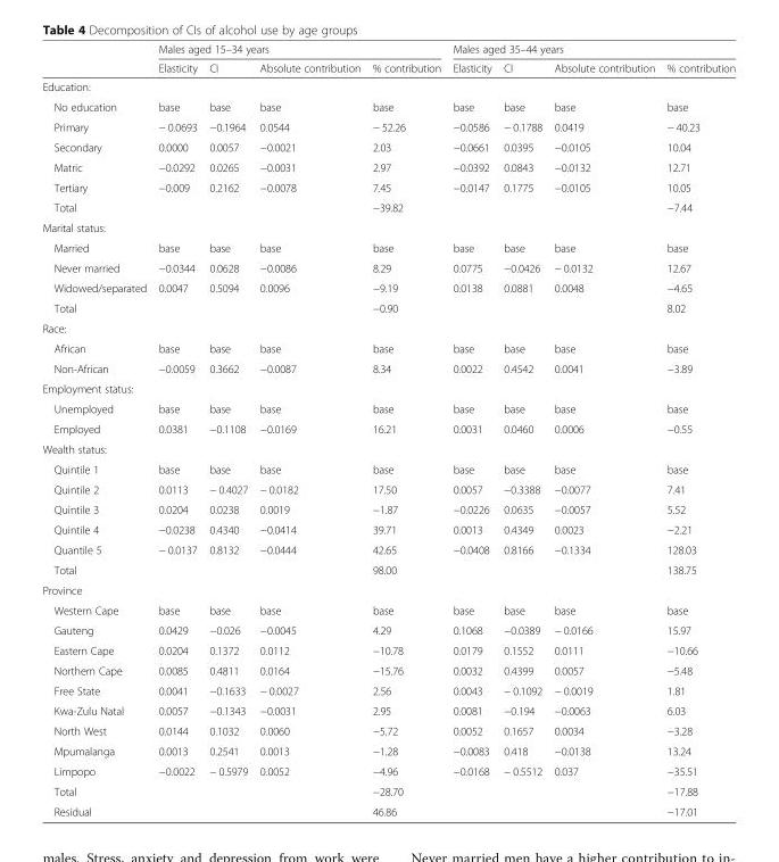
<table><thead><tr><td rowspan="2"></td><td colspan="4">Males aged 15–34 years</td><td colspan="4">Males aged 35–44 years</td></tr><tr><td>Elasticity</td><td>CI</td><td>Absolute contribution</td><td>% contribution</td><td>Elasticity</td><td>CI</td><td>Absolute contribution</td><td>% contribution</td></tr></thead><tbody><tr><td colspan="9">Education:</td></tr><tr><td>No education</td><td>base</td><td>base</td><td>base</td><td>base</td><td>base</td><td>base</td><td>base</td><td>base</td></tr><tr><td>Primary</td><td>− 0.0693</td><td>−0.1964</td><td>0.0544</td><td>− 52.26</td><td>−0.0586</td><td>− 0.1788</td><td>0.0419</td><td>− 40.23</td></tr><tr><td>Secondary</td><td>0.0000</td><td>0.0057</td><td>−0.0021</td><td>2.03</td><td>−0.0661</td><td>0.0395</td><td>−0.0105</td><td>10.04</td></tr><tr><td>Matric</td><td>−0.0292</td><td>0.0265</td><td>−0.0031</td><td>2.97</td><td>−0.0392</td><td>0.0843</td><td>−0.0132</td><td>12.71</td></tr><tr><td>Tertiary</td><td>−0.009</td><td>0.2162</td><td>−0.0078</td><td>7.45</td><td>−0.0147</td><td>0.1775</td><td>−0.0105</td><td>10.05</td></tr><tr><td>Total</td><td></td><td></td><td></td><td>−39.82</td><td></td><td></td><td></td><td>−7.44</td></tr><tr><td colspan="9">Marital status:</td></tr><tr><td>Married</td><td>base</td><td>base</td><td>base</td><td>base</td><td>base</td><td>base</td><td>base</td><td>base</td></tr><tr><td>Never married</td><td>−0.0344</td><td>0.0628</td><td>−0.0086</td><td>8.29</td><td>0.0775</td><td>−0.0426</td><td>− 0.0132</td><td>12.67</td></tr><tr><td>Widowed/separated</td><td>0.0047</td><td>0.5094</td><td>0.0096</td><td>−9.19</td><td>0.0138</td><td>0.0881</td><td>0.0048</td><td>−4.65</td></tr><tr><td>Total</td><td></td><td></td><td></td><td>−0.90</td><td></td><td></td><td></td><td>8.02</td></tr><tr><td colspan="9">Race:</td></tr><tr><td>African</td><td>base</td><td>base</td><td>base</td><td>base</td><td>base</td><td>base</td><td>base</td><td>base</td></tr><tr><td>Non-African</td><td>−0.0059</td><td>0.3662</td><td>−0.0087</td><td>8.34</td><td>0.0022</td><td>0.4542</td><td>0.0041</td><td>−3.89</td></tr><tr><td colspan="9">Employment status:</td></tr><tr><td>Unemployed</td><td>base</td><td>base</td><td>base</td><td>base</td><td>base</td><td>base</td><td>base</td><td>base</td></tr><tr><td>Employed</td><td>0.0381</td><td>−0.1108</td><td>−0.0169</td><td>16.21</td><td>0.0031</td><td>0.0460</td><td>0.0006</td><td>−0.55</td></tr><tr><td colspan="9">Wealth status:</td></tr><tr><td>Quintile 1</td><td>base</td><td>base</td><td>base</td><td>base</td><td>base</td><td>base</td><td>base</td><td>base</td></tr><tr><td>Quintile 2</td><td>0.0113</td><td>− 0.4027</td><td>− 0.0182</td><td>17.50</td><td>0.0057</td><td>−0.3388</td><td>−0.0077</td><td>7.41</td></tr><tr><td>Quintile 3</td><td>0.0204</td><td>0.0238</td><td>0.0019</td><td>−1.87</td><td>−0.0226</td><td>0.0635</td><td>−0.0057</td><td>5.52</td></tr><tr><td>Quintile 4</td><td>−0.0238</td><td>0.4340</td><td>−0.0414</td><td>39.71</td><td>0.0013</td><td>0.4349</td><td>0.0023</td><td>−2.21</td></tr><tr><td>Quantile 5</td><td>− 0.0137</td><td>0.8132</td><td>−0.0444</td><td>42.65</td><td>−0.0408</td><td>0.8166</td><td>−0.1334</td><td>128.03</td></tr><tr><td>Total</td><td></td><td></td><td></td><td>98.00</td><td></td><td></td><td></td><td>138.75</td></tr><tr><td colspan="9">Province</td></tr><tr><td>Western Cape</td><td>base</td><td>base</td><td>base</td><td>base</td><td>base</td><td>base</td><td>base</td><td>base</td></tr><tr><td>Gauteng</td><td>0.0429</td><td>−0.026</td><td>−0.0045</td><td>4.29</td><td>0.1068</td><td>−0.0389</td><td>− 0.0166</td><td>15.97</td></tr><tr><td>Eastern Cape</td><td>0.0204</td><td>0.1372</td><td>0.0112</td><td>−10.78</td><td>0.0179</td><td>0.1552</td><td>0.0111</td><td>−10.66</td></tr><tr><td>Northern Cape</td><td>0.0085</td><td>0.4811</td><td>0.0164</td><td>−15.76</td><td>0.0032</td><td>0.4399</td><td>0.0057</td><td>−5.48</td></tr><tr><td>Free State</td><td>0.0041</td><td>−0.1633</td><td>− 0.0027</td><td>2.56</td><td>0.0043</td><td>− 0.1092</td><td>− 0.0019</td><td>1.81</td></tr><tr><td>Kwa-Zulu Natal</td><td>0.0057</td><td>−0.1343</td><td>−0.0031</td><td>2.95</td><td>0.0081</td><td>−0.194</td><td>−0.0063</td><td>6.03</td></tr><tr><td>North West</td><td>0.0144</td><td>0.1032</td><td>0.0060</td><td>−5.72</td><td>0.0052</td><td>0.1657</td><td>0.0034</td><td>−3.28</td></tr><tr><td>Mpumalanga</td><td>0.0013</td><td>0.2541</td><td>0.0013</td><td>−1.28</td><td>−0.0083</td><td>0.418</td><td>−0.0138</td><td>13.24</td></tr><tr><td>Limpopo</td><td>−0.0022</td><td>− 0.5979</td><td>0.0052</td><td>−4.96</td><td>−0.0168</td><td>− 0.5512</td><td>0.037</td><td>−35.51</td></tr><tr><td>Total</td><td></td><td></td><td></td><td>−28.70</td><td></td><td></td><td></td><td>−17.88</td></tr><tr><td>Residual</td><td></td><td></td><td></td><td>46.86</td><td></td><td></td><td></td><td>−17.01</td></tr></tbody></table>